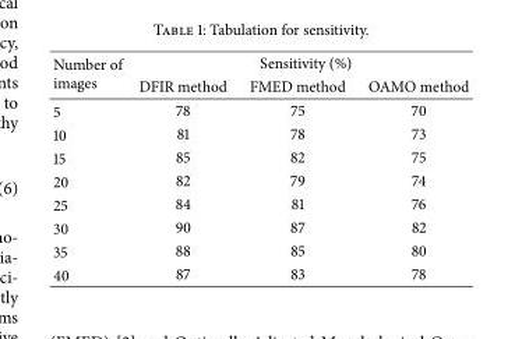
<table><thead><tr><td rowspan="2">Number of images</td><td colspan="3">Sensitivity (%)</td></tr><tr><td>DFIR method</td><td>FMED method</td><td>OAMO method</td></tr></thead><tbody><tr><td>5</td><td>78</td><td>75</td><td>70</td></tr><tr><td>10</td><td>81</td><td>78</td><td>73</td></tr><tr><td>15</td><td>85</td><td>82</td><td>75</td></tr><tr><td>20</td><td>82</td><td>79</td><td>74</td></tr><tr><td>25</td><td>84</td><td>81</td><td>76</td></tr><tr><td>30</td><td>90</td><td>87</td><td>82</td></tr><tr><td>35</td><td>88</td><td>85</td><td>80</td></tr><tr><td>40</td><td>87</td><td>83</td><td>78</td></tr></tbody></table>